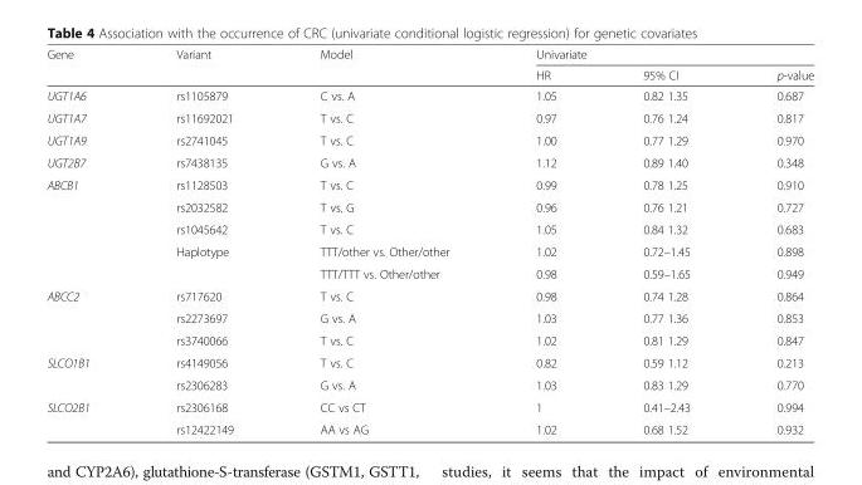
<table><thead><tr><td rowspan="2">Gene</td><td rowspan="2">Variant</td><td rowspan="2">Model</td><td colspan="3">Univariate</td></tr><tr><td>HR</td><td>95% CI</td><td>p-value</td></tr></thead><tbody><tr><td>UGT1A6</td><td>rs1105879</td><td>C vs. A</td><td>1.05</td><td>0.82 1.35</td><td>0.687</td></tr><tr><td>UGT1A7</td><td>rs11692021</td><td>T vs. C</td><td>0.97</td><td>0.76 1.24</td><td>0.817</td></tr><tr><td>UGT1A9</td><td>rs2741045</td><td>T vs. C</td><td>1.00</td><td>0.77 1.29</td><td>0.970</td></tr><tr><td>UGT2B7</td><td>rs7438135</td><td>G vs. A</td><td>1.12</td><td>0.89 1.40</td><td>0.348</td></tr><tr><td rowspan="5">ABCB1</td><td>rs1128503</td><td>T vs. C</td><td>0.99</td><td>0.78 1.25</td><td>0.910</td></tr><tr><td>rs2032582</td><td>T vs. G</td><td>0.96</td><td>0.76 1.21</td><td>0.727</td></tr><tr><td>rs1045642</td><td>T vs. C</td><td>1.05</td><td>0.84 1.32</td><td>0.683</td></tr><tr><td>Haplotype</td><td>TTT/other vs. Other/other</td><td>1.02</td><td>0.72–1.45</td><td>0.898</td></tr><tr><td></td><td>TTT/TTT vs. Other/other</td><td>0.98</td><td>0.59–1.65</td><td>0.949</td></tr><tr><td rowspan="3">ABCC2</td><td>rs717620</td><td>T vs. C</td><td>0.98</td><td>0.74 1.28</td><td>0.864</td></tr><tr><td>rs2273697</td><td>G vs. A</td><td>1.03</td><td>0.77 1.36</td><td>0.853</td></tr><tr><td>rs3740066</td><td>T vs. C</td><td>1.02</td><td>0.81 1.29</td><td>0.847</td></tr><tr><td rowspan="2">SLCO1B1</td><td>rs4149056</td><td>T vs. C</td><td>0.82</td><td>0.59 1.12</td><td>0.213</td></tr><tr><td>rs2306283</td><td>G vs. A</td><td>1.03</td><td>0.83 1.29</td><td>0.770</td></tr><tr><td rowspan="2">SLCO2B1</td><td>rs2306168</td><td>CC vs CT</td><td>1</td><td>0.41–2.43</td><td>0.994</td></tr><tr><td>rs12422149</td><td>AA vs AG</td><td>1.02</td><td>0.68 1.52</td><td>0.932</td></tr></tbody></table>